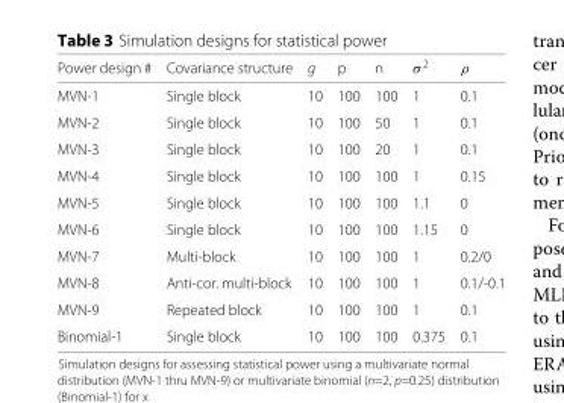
<table><thead><tr><td>Power design #</td><td>Covariance structure</td><td>g</td><td>p</td><td>n</td><td>σ <sup>2</sup></td><td>ρ</td></tr></thead><tbody><tr><td>MVN-1</td><td>Single block</td><td>10</td><td>100</td><td>100</td><td>1</td><td>0.1</td></tr><tr><td>MVN-2</td><td>Single block</td><td>10</td><td>100</td><td>50</td><td>1</td><td>0.1</td></tr><tr><td>MVN-3</td><td>Single block</td><td>10</td><td>100</td><td>20</td><td>1</td><td>0.1</td></tr><tr><td>MVN-4</td><td>Single block</td><td>10</td><td>100</td><td>100</td><td>1</td><td>0.15</td></tr><tr><td>MVN-5</td><td>Single block</td><td>10</td><td>100</td><td>100</td><td>1.1</td><td>0</td></tr><tr><td>MVN-6</td><td>Single block</td><td>10</td><td>100</td><td>100</td><td>1.15</td><td>0</td></tr><tr><td>MVN-7</td><td>Multi-block</td><td>10</td><td>100</td><td>100</td><td>1</td><td>0.2/0</td></tr><tr><td>MVN-8</td><td>Anti-cor. multi-block</td><td>10</td><td>100</td><td>100</td><td>1</td><td>0.1/-0.1</td></tr><tr><td>MVN-9</td><td>Repeated block</td><td>10</td><td>100</td><td>100</td><td>1</td><td>0.1</td></tr><tr><td>Binomial-1</td><td>Single block</td><td>10</td><td>100</td><td>100</td><td>0.375</td><td>0.1</td></tr></tbody></table>